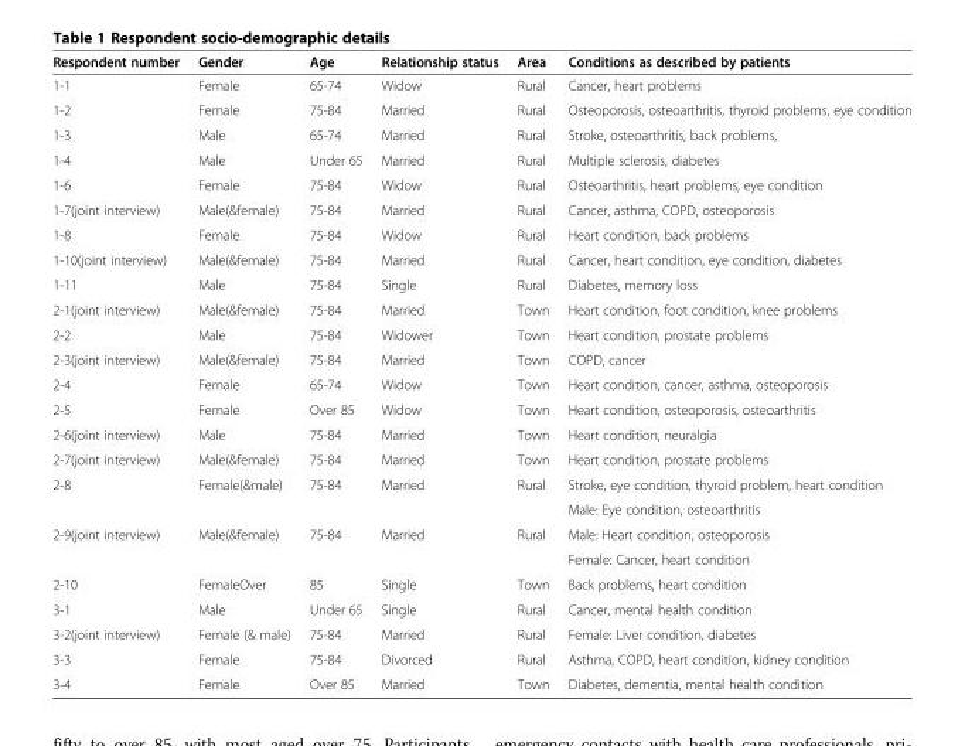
<table><thead><tr><td>Respondent number</td><td>Gender</td><td>Age</td><td>Relationship status</td><td>Area</td><td>Conditions as described by patients</td></tr></thead><tbody><tr><td>1-1</td><td>Female</td><td>65-74</td><td>Widow</td><td>Rural</td><td>Cancer, heart problems</td></tr><tr><td>1-2</td><td>Female</td><td>75-84</td><td>Married</td><td>Rural</td><td>Osteoporosis, osteoarthritis, thyroid problems, eye condition</td></tr><tr><td>1-3</td><td>Male</td><td>65-74</td><td>Married</td><td>Rural</td><td>Stroke, osteoarthritis, back problems,</td></tr><tr><td>1-4</td><td>Male</td><td>Under 65</td><td>Married</td><td>Rural</td><td>Multiple sclerosis, diabetes</td></tr><tr><td>1-6</td><td>Female</td><td>75-84</td><td>Widow</td><td>Rural</td><td>Osteoarthritis, heart problems, eye condition</td></tr><tr><td>1-7(joint interview)</td><td>Male(&amp;female)</td><td>75-84</td><td>Married</td><td>Rural</td><td>Cancer, asthma, COPD, osteoporosis</td></tr><tr><td>1-8</td><td>Female</td><td>75-84</td><td>Widow</td><td>Rural</td><td>Heart condition, back problems</td></tr><tr><td>1-10(joint interview)</td><td>Male(&amp;female)</td><td>75-84</td><td>Married</td><td>Rural</td><td>Cancer, heart condition, eye condition, diabetes</td></tr><tr><td>1-11</td><td>Male</td><td>75-84</td><td>Single</td><td>Rural</td><td>Diabetes, memory loss</td></tr><tr><td>2-1(joint interview)</td><td>Male(&amp;female)</td><td>75-84</td><td>Married</td><td>Town</td><td>Heart condition, foot condition, knee problems</td></tr><tr><td>2-2</td><td>Male</td><td>75-84</td><td>Widower</td><td>Town</td><td>Heart condition, prostate problems</td></tr><tr><td>2-3(joint interview)</td><td>Male(&amp;female)</td><td>75-84</td><td>Married</td><td>Town</td><td>COPD, cancer</td></tr><tr><td>2-4</td><td>Female</td><td>65-74</td><td>Widow</td><td>Town</td><td>Heart condition, cancer, asthma, osteoporosis</td></tr><tr><td>2-5</td><td>Female</td><td>Over 85</td><td>Widow</td><td>Town</td><td>Heart condition, osteoporosis, osteoarthritis</td></tr><tr><td>2-6(joint interview)</td><td>Male</td><td>75-84</td><td>Married</td><td>Town</td><td>Heart condition, neuralgia</td></tr><tr><td>2-7(joint interview)</td><td>Male(&amp;female)</td><td>75-84</td><td>Married</td><td>Town</td><td>Heart condition, prostate problems</td></tr><tr><td rowspan="2">2-8</td><td>Female(&amp;male)</td><td>75-84</td><td>Married</td><td>Rural</td><td>Stroke, eye condition, thyroid problem, heart condition</td></tr><tr><td></td><td></td><td></td><td></td><td>Male: Eye condition, osteoarthritis</td></tr><tr><td rowspan="2">2-9(joint interview)</td><td>Male(&amp;female)</td><td>75-84</td><td>Married</td><td>Rural</td><td>Male: Heart condition, osteoporosis</td></tr><tr><td></td><td></td><td></td><td></td><td>Female: Cancer, heart condition</td></tr><tr><td>2-10</td><td>FemaleOver</td><td>85</td><td>Single</td><td>Town</td><td>Back problems, heart condition</td></tr><tr><td>3-1</td><td>Male</td><td>Under 65</td><td>Single</td><td>Rural</td><td>Cancer, mental health condition</td></tr><tr><td>3-2(joint interview)</td><td>Female (&amp; male)</td><td>75-84</td><td>Married</td><td>Rural</td><td>Female: Liver condition, diabetes</td></tr><tr><td>3-3</td><td>Female</td><td>75-84</td><td>Divorced</td><td>Rural</td><td>Asthma, COPD, heart condition, kidney condition</td></tr><tr><td>3-4</td><td>Female</td><td>Over 85</td><td>Married</td><td>Town</td><td>Diabetes, dementia, mental health condition</td></tr></tbody></table>